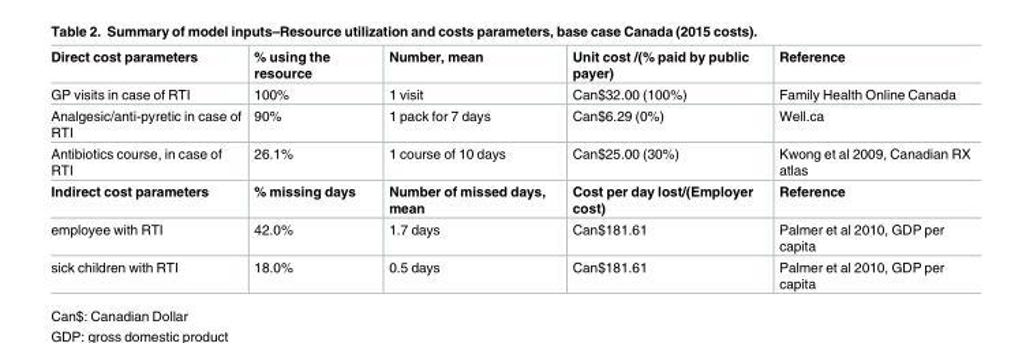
<table><tbody><tr><td>Direct cost parameters</td><td>% using the resource</td><td>Number, mean</td><td>Unit cost /(% paid by public payer)</td><td>Reference</td></tr><tr><td>GP visits in case of RTI</td><td>100%</td><td>1 visit</td><td>Can$32.00 (100%)</td><td>Family Health Online Canada</td></tr><tr><td>Analgesic/anti-pyretic in case of RTI</td><td>90%</td><td>1 pack for 7 days</td><td>Can$6.29 (0%)</td><td>Well.ca</td></tr><tr><td>Antibiotics course, in case of RTI</td><td>26.1%</td><td>1 course of 10 days</td><td>Can$25.00 (30%)</td><td>Kwong et al 2009, Canadian RX atlas</td></tr><tr><td>Indirect cost parameters</td><td>% missing days</td><td>Number of missed days, mean</td><td>Cost per day lost/(Employer cost)</td><td>Reference</td></tr><tr><td>employee with RTI</td><td>42.0%</td><td>1.7 days</td><td>Can$181.61</td><td>Palmer et al 2010, GDP per capita</td></tr><tr><td>sick children with RTI</td><td>18.0%</td><td>0.5 days</td><td>Can$181.61</td><td>Palmer et al 2010, GDP per capita</td></tr></tbody></table>